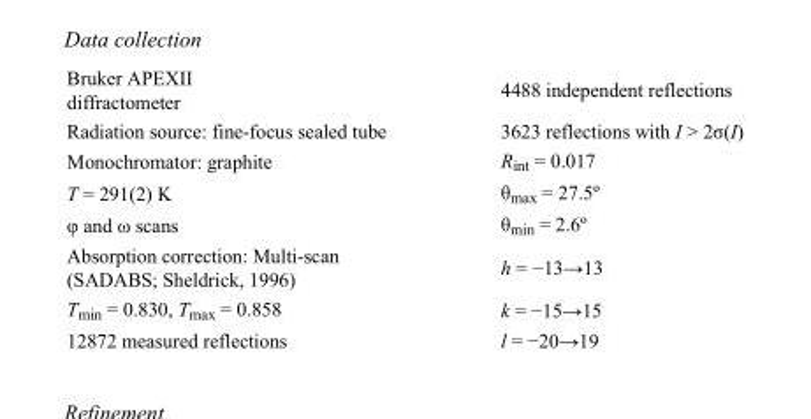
<table><tbody><tr><td>Bruker APEXII diffractometer</td><td>4488 independent reflections</td></tr><tr><td>Radiation source: fine-focus sealed tube</td><td>3623 reflections with I &gt; 2σ(I)</td></tr><tr><td>Monochromator: graphite</td><td>R<sub>int</sub> = 0.017</td></tr><tr><td>T = 291(2) K</td><td>θ<sub>max</sub> = 27.5º</td></tr><tr><td>φ and ω scans</td><td>θ<sub>min</sub> = 2.6º</td></tr><tr><td>Absorption correction: Multi-scan (SADABS; Sheldrick, 1996)</td><td>h = −13→13</td></tr><tr><td>T<sub>min</sub> = 0.830, T<sub>max</sub> = 0.858</td><td>k = −15→15</td></tr><tr><td>12872 measured reflections</td><td>l = −20→19</td></tr></tbody></table>